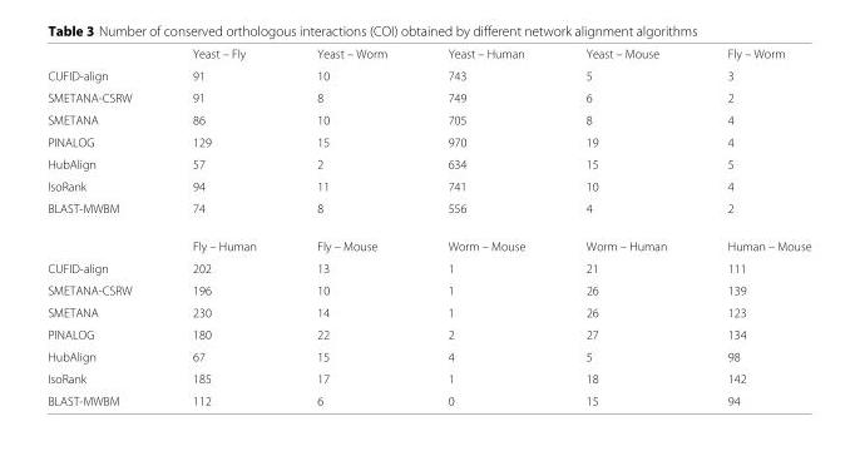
<table><thead><tr><td></td><td>Yeast – Fly</td><td>Yeast – Worm</td><td>Yeast – Human</td><td>Yeast – Mouse</td><td>Fly – Worm</td></tr></thead><tbody><tr><td>CUFID-align</td><td>91</td><td>10</td><td>743</td><td>5</td><td>3</td></tr><tr><td>SMETANA-CSRW</td><td>91</td><td>8</td><td>749</td><td>6</td><td>2</td></tr><tr><td>SMETANA</td><td>86</td><td>10</td><td>705</td><td>8</td><td>4</td></tr><tr><td>PINALOG</td><td>129</td><td>15</td><td>970</td><td>19</td><td>4</td></tr><tr><td>HubAlign</td><td>57</td><td>2</td><td>634</td><td>15</td><td>5</td></tr><tr><td>IsoRank</td><td>94</td><td>11</td><td>741</td><td>10</td><td>4</td></tr><tr><td rowspan="2">BLAST-MWBM</td><td>74</td><td>8</td><td>556</td><td>4</td><td>2</td></tr><tr><td>Fly – Human</td><td>Fly – Mouse</td><td>Worm – Mouse</td><td>Worm – Human</td><td>Human – Mouse</td></tr><tr><td>CUFID-align</td><td>202</td><td>13</td><td>1</td><td>21</td><td>111</td></tr><tr><td>SMETANA-CSRW</td><td>196</td><td>10</td><td>1</td><td>26</td><td>139</td></tr><tr><td>SMETANA</td><td>230</td><td>14</td><td>1</td><td>26</td><td>123</td></tr><tr><td>PINALOG</td><td>180</td><td>22</td><td>2</td><td>27</td><td>134</td></tr><tr><td>HubAlign</td><td>67</td><td>15</td><td>4</td><td>5</td><td>98</td></tr><tr><td>IsoRank</td><td>185</td><td>17</td><td>1</td><td>18</td><td>142</td></tr><tr><td>BLAST-MWBM</td><td>112</td><td>6</td><td>0</td><td>15</td><td>94</td></tr></tbody></table>